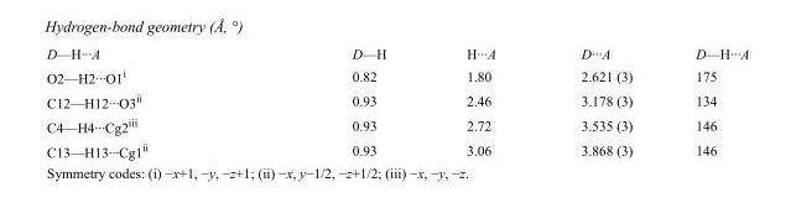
<table><tbody><tr><td>D—H···A</td><td>D—H</td><td>H···A</td><td>D···A</td><td>D—H···A</td></tr><tr><td>O2—H2···O1<sup>i</sup></td><td>0.82</td><td>1.80</td><td>2.621 (3)</td><td>175</td></tr><tr><td>C12—H12···O3<sup>ii</sup></td><td>0.93</td><td>2.46</td><td>3.178 (3)</td><td>134</td></tr><tr><td>C4—H4···Cg2<sup>iii</sup></td><td>0.93</td><td>2.72</td><td>3.535 (3)</td><td>146</td></tr><tr><td>C13—H13···Cg1<sup>ii</sup></td><td>0.93</td><td>3.06</td><td>3.868 (3)</td><td>146</td></tr></tbody></table>